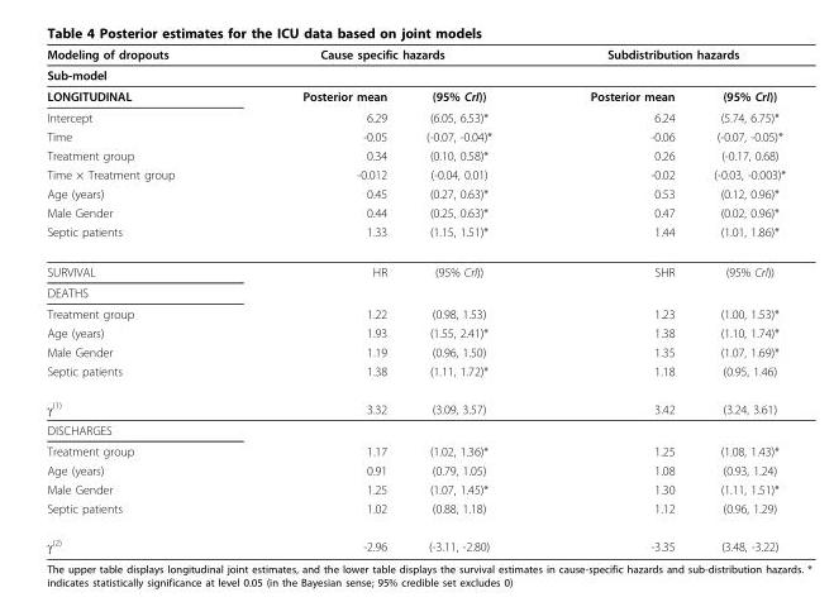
<table><thead><tr><td rowspan="2">Modeling of dropouts Sub-model</td><td colspan="2">Cause specific hazards</td><td colspan="2">Subdistribution hazards</td></tr><tr><td></td><td></td><td></td><td></td></tr></thead><tbody><tr><td>LONGITUDINAL</td><td>Posterior mean</td><td>(95% CrI))</td><td>Posterior mean</td><td>(95% CrI))</td></tr><tr><td>Intercept</td><td>6.29</td><td>(6.05, 6.53)*</td><td>6.24</td><td>(5.74, 6.75)*</td></tr><tr><td>Time</td><td>-0.05</td><td>(-0.07, -0.04)*</td><td>-0.06</td><td>(-0.07, -0.05)*</td></tr><tr><td>Treatment group</td><td>0.34</td><td>(0.10, 0.58)*</td><td>0.26</td><td>(-0.17, 0.68)</td></tr><tr><td>Time × Treatment group</td><td>-0.012</td><td>(-0.04, 0.01)</td><td>-0.02</td><td>(-0.03, -0.003)*</td></tr><tr><td>Age (years)</td><td>0.45</td><td>(0.27, 0.63)*</td><td>0.53</td><td>(0.12, 0.96)*</td></tr><tr><td>Male Gender</td><td>0.44</td><td>(0.25, 0.63)*</td><td>0.47</td><td>(0.02, 0.96)*</td></tr><tr><td>Septic patients</td><td>1.33</td><td>(1.15, 1.51)*</td><td>1.44</td><td>(1.01, 1.86)*</td></tr><tr><td>SURVIVAL</td><td>HR</td><td>(95% CrI))</td><td>SHR</td><td>(95% CrI))</td></tr><tr><td colspan="5">DEATHS</td></tr><tr><td>Treatment group</td><td>1.22</td><td>(0.98, 1.53)</td><td>1.23</td><td>(1.00, 1.53)*</td></tr><tr><td>Age (years)</td><td>1.93</td><td>(1.55, 2.41)*</td><td>1.38</td><td>(1.10, 1.74)*</td></tr><tr><td>Male Gender</td><td>1.19</td><td>(0.96, 1.50)</td><td>1.35</td><td>(1.07, 1.69)*</td></tr><tr><td>Septic patients</td><td>1.38</td><td>(1.11, 1.72)*</td><td>1.18</td><td>(0.95, 1.46)</td></tr><tr><td>γ<sup>(1)</sup></td><td>3.32</td><td>(3.09, 3.57)</td><td>3.42</td><td>(3.24, 3.61)</td></tr><tr><td colspan="5">DISCHARGES</td></tr><tr><td>Treatment group</td><td>1.17</td><td>(1.02, 1.36)*</td><td>1.25</td><td>(1.08, 1.43)*</td></tr><tr><td>Age (years)</td><td>0.91</td><td>(0.79, 1.05)</td><td>1.08</td><td>(0.93, 1.24)</td></tr><tr><td>Male Gender</td><td>1.25</td><td>(1.07, 1.45)*</td><td>1.30</td><td>(1.11, 1.51)*</td></tr><tr><td>Septic patients</td><td>1.02</td><td>(0.88, 1.18)</td><td>1.12</td><td>(0.96, 1.29)</td></tr><tr><td>γ<sup>(2)</sup></td><td>-2.96</td><td>(-3.11, -2.80)</td><td>-3.35</td><td>(3.48, -3.22)</td></tr></tbody></table>